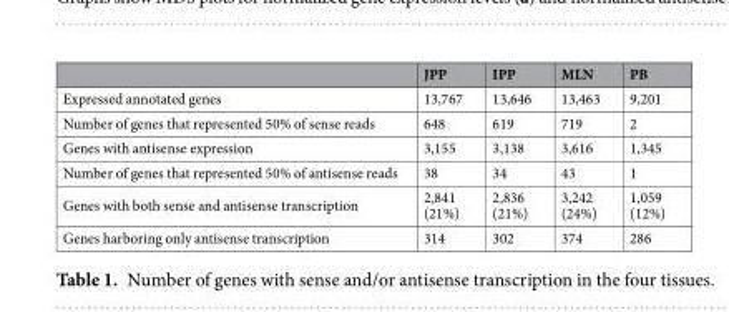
<table><thead><tr><td></td><td>JPP</td><td>IPP</td><td>MLN</td><td>PB</td></tr></thead><tbody><tr><td>Expressed annotated genes</td><td>13,767</td><td>13,646</td><td>13,463</td><td>9,201</td></tr><tr><td>Number of genes that represented 50% of sense reads</td><td>648</td><td>619</td><td>719</td><td>2</td></tr><tr><td>Genes with antisense expression</td><td>3,155</td><td>3,138</td><td>3,616</td><td>1,345</td></tr><tr><td>Number of genes that represented 50% of antisense reads</td><td>38</td><td>34</td><td>43</td><td>1</td></tr><tr><td>Genes with both sense and antisense transcription</td><td>2,841 (21%)</td><td>2,836 (21%)</td><td>3,242 (24%)</td><td>1,059 (12%)</td></tr><tr><td>Genes harboring only antisense transcription</td><td>314</td><td>302</td><td>374</td><td>286</td></tr></tbody></table>